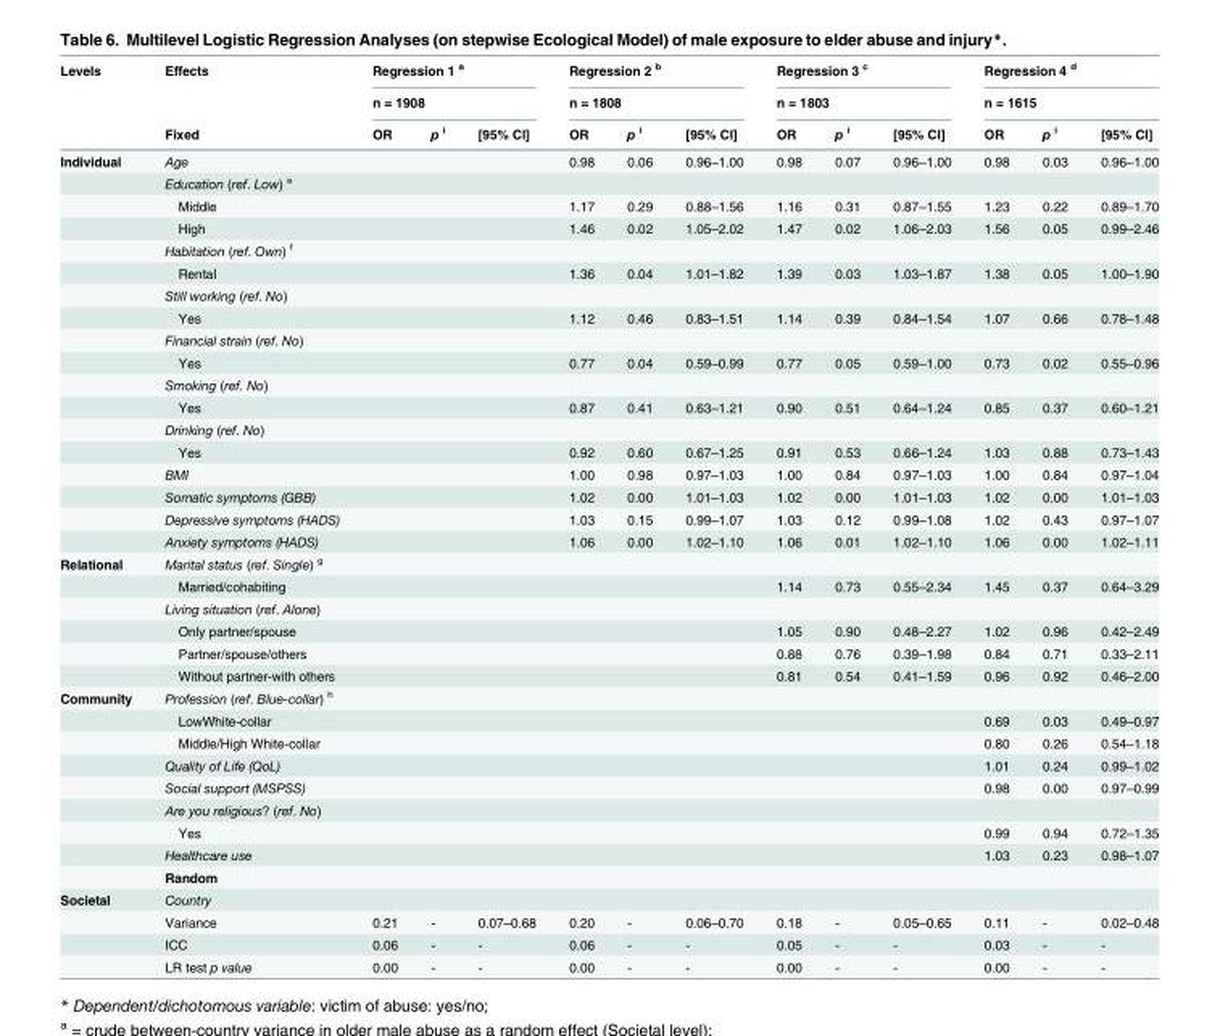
<table><thead><tr><td rowspan="3">Levels</td><td rowspan="3">Effects Fixed</td><td rowspan="2" colspan="3">Regression 1 <sup>a</sup> n = 1908</td><td rowspan="2" colspan="3">Regression 2 <sup>b</sup> n = 1808</td><td rowspan="2" colspan="3">Regression 3 <sup>c</sup> n = 1803</td><td rowspan="2" colspan="3">Regression 4 <sup>d</sup> n = 1615</td></tr><tr></tr><tr><td>OR</td><td>p <sup>i</sup></td><td>[95% Cl]</td><td>OR</td><td>p <sup>i</sup></td><td>[95% Cl]</td><td>OR</td><td>p <sup>i</sup></td><td>[95% Cl]</td><td>OR</td><td>p <sup>i</sup></td><td>[95% Cl]</td></tr></thead><tbody><tr><td rowspan="18">Individual</td><td>Age</td><td></td><td></td><td></td><td>0.98</td><td>0.06</td><td>0.96–1.00</td><td>0.98</td><td>0.07</td><td>0.96–1.00</td><td>0.98</td><td>0.03</td><td>0.96–1.00</td></tr><tr><td>Education (ref. Low) <sup>e</sup></td><td></td><td></td><td></td><td></td><td></td><td></td><td></td><td></td><td></td><td></td><td></td><td></td></tr><tr><td>Middle</td><td></td><td></td><td></td><td>1.17</td><td>0.29</td><td>0.88–1.56</td><td>1.16</td><td>0.31</td><td>0.87–1.55</td><td>1.23</td><td>0.22</td><td>0.89–1.70</td></tr><tr><td>High</td><td></td><td></td><td></td><td>1.46</td><td>0.02</td><td>1.05–2.02</td><td>1.47</td><td>0.02</td><td>1.06–2.03</td><td>1.56</td><td>0.05</td><td>0.99–2.46</td></tr><tr><td>Habitation (ref. Own) <sup>f</sup></td><td></td><td></td><td></td><td></td><td></td><td></td><td></td><td></td><td></td><td></td><td></td><td></td></tr><tr><td>Rental</td><td></td><td></td><td></td><td>1.36</td><td>0.04</td><td>1.01–1.82</td><td>1.39</td><td>0.03</td><td>1.03–1.87</td><td>1.38</td><td>0.05</td><td>1.00–1.90</td></tr><tr><td>Still working (ref. No)</td><td></td><td></td><td></td><td></td><td></td><td></td><td></td><td></td><td></td><td></td><td></td><td></td></tr><tr><td>Yes</td><td></td><td></td><td></td><td>1.12</td><td>0.46</td><td>0.83–1.51</td><td>1.14</td><td>0.39</td><td>0.84–1.54</td><td>1.07</td><td>0.66</td><td>0.78–1.48</td></tr><tr><td>Financial strain (ref. No)</td><td></td><td></td><td></td><td></td><td></td><td></td><td></td><td></td><td></td><td></td><td></td><td></td></tr><tr><td>Yes</td><td></td><td></td><td></td><td>0.77</td><td>0.04</td><td>0.59–0.99</td><td>0.77</td><td>0.05</td><td>0.59–1.00</td><td>0.73</td><td>0.02</td><td>0.55–0.96</td></tr><tr><td>Smoking (ref. No)</td><td></td><td></td><td></td><td></td><td></td><td></td><td></td><td></td><td></td><td></td><td></td><td></td></tr><tr><td>Yes</td><td></td><td></td><td></td><td>0.87</td><td>0.41</td><td>0.63–1.21</td><td>0.90</td><td>0.51</td><td>0.64–1.24</td><td>0.85</td><td>0.37</td><td>0.60–1.21</td></tr><tr><td>Drinking (ref. No)</td><td></td><td></td><td></td><td></td><td></td><td></td><td></td><td></td><td></td><td></td><td></td><td></td></tr><tr><td>Yes</td><td></td><td></td><td></td><td>0.92</td><td>0.60</td><td>0.67–1.25</td><td>0.91</td><td>0.53</td><td>0.66–1.24</td><td>1.03</td><td>0.88</td><td>0.73–1.43</td></tr><tr><td>BMI</td><td></td><td></td><td></td><td>1.00</td><td>0.98</td><td>0.97–1.03</td><td>1.00</td><td>0.84</td><td>0.97–1.03</td><td>1.00</td><td>0.84</td><td>0.97–1.04</td></tr><tr><td>Somatic symptoms (GBB)</td><td></td><td></td><td></td><td>1.02</td><td>0.00</td><td>1.01–1.03</td><td>1.02</td><td>0.00</td><td>1.01–1.03</td><td>1.02</td><td>0.00</td><td>1.01–1.03</td></tr><tr><td>Depressive symptoms (HADS)</td><td></td><td></td><td></td><td>1.03</td><td>0.15</td><td>0.99–1.07</td><td>1.03</td><td>0.12</td><td>0.99–1.08</td><td>1.02</td><td>0.43</td><td>0.97–1.07</td></tr><tr><td>Anxiety symptoms (HADS)</td><td></td><td></td><td></td><td>1.06</td><td>0.00</td><td>1.02–1.10</td><td>1.06</td><td>0.01</td><td>1.02–1.10</td><td>1.06</td><td>0.00</td><td>1.02–1.11</td></tr><tr><td rowspan="6">Relational</td><td>Marital status (ref. Single) <sup>g</sup></td><td></td><td></td><td></td><td></td><td></td><td></td><td></td><td></td><td></td><td></td><td></td><td></td></tr><tr><td>Married/cohabiting</td><td></td><td></td><td></td><td></td><td></td><td></td><td>1.14</td><td>0.73</td><td>0.55–2.34</td><td>1.45</td><td>0.37</td><td>0.64–3.29</td></tr><tr><td>Living situation (ref. Alone)</td><td></td><td></td><td></td><td></td><td></td><td></td><td></td><td></td><td></td><td></td><td></td><td></td></tr><tr><td>Only partner/spouse</td><td></td><td></td><td></td><td></td><td></td><td></td><td>1.05</td><td>0.90</td><td>0.48–2.27</td><td>1.02</td><td>0.96</td><td>0.42–2.49</td></tr><tr><td>Partner/spouse/others</td><td></td><td></td><td></td><td></td><td></td><td></td><td>0.88</td><td>0.76</td><td>0.39–1.98</td><td>0.84</td><td>0.71</td><td>0.33–2.11</td></tr><tr><td>Without partner-with others</td><td></td><td></td><td></td><td></td><td></td><td></td><td>0.81</td><td>0.54</td><td>0.41–1.59</td><td>0.96</td><td>0.92</td><td>0.46–2.00</td></tr><tr><td rowspan="9">Community</td><td>Profession (ref. Blue-collar) <sup>h</sup></td><td></td><td></td><td></td><td></td><td></td><td></td><td></td><td></td><td></td><td></td><td></td><td></td></tr><tr><td>LowWhite-collar</td><td></td><td></td><td></td><td></td><td></td><td></td><td></td><td></td><td></td><td>0.69</td><td>0.03</td><td>0.49–0.97</td></tr><tr><td>Middle/High White-collar</td><td></td><td></td><td></td><td></td><td></td><td></td><td></td><td></td><td></td><td>0.80</td><td>0.26</td><td>0.54–1.18</td></tr><tr><td>Quality of Life (QoL)</td><td></td><td></td><td></td><td></td><td></td><td></td><td></td><td></td><td></td><td>1.01</td><td>0.24</td><td>0.99–1.02</td></tr><tr><td>Social support (MSPSS)</td><td></td><td></td><td></td><td></td><td></td><td></td><td></td><td></td><td></td><td>0.98</td><td>0.00</td><td>0.97–0.99</td></tr><tr><td>Are you religious? (ref. No)</td><td></td><td></td><td></td><td></td><td></td><td></td><td></td><td></td><td></td><td></td><td></td><td></td></tr><tr><td>Yes</td><td></td><td></td><td></td><td></td><td></td><td></td><td></td><td></td><td></td><td>0.99</td><td>0.94</td><td>0.72–1.35</td></tr><tr><td>Healthcare use</td><td></td><td></td><td></td><td></td><td></td><td></td><td></td><td></td><td></td><td>1.03</td><td>0.23</td><td>0.98–1.07</td></tr><tr><td>Random</td><td></td><td></td><td></td><td></td><td></td><td></td><td></td><td></td><td></td><td></td><td></td><td></td></tr><tr><td rowspan="4">Societal</td><td>Country</td><td></td><td></td><td></td><td></td><td></td><td></td><td></td><td></td><td></td><td></td><td></td><td></td></tr><tr><td>Variance</td><td>0.21</td><td>-</td><td>0.07–0.68</td><td>0.20</td><td>-</td><td>0.06–0.70</td><td>0.18</td><td>-</td><td>0.05–0.65</td><td>0.11</td><td>-</td><td>0.02–0.48</td></tr><tr><td>ICC</td><td>0.06</td><td>-</td><td>-</td><td>0.06</td><td>-</td><td>-</td><td>0.05</td><td>-</td><td>-</td><td>0.03</td><td>-</td><td>-</td></tr><tr><td>LR test p value</td><td>0.00</td><td>-</td><td>-</td><td>0.00</td><td>-</td><td>-</td><td>0.00</td><td>-</td><td>-</td><td>0.00</td><td>-</td><td>-</td></tr></tbody></table>